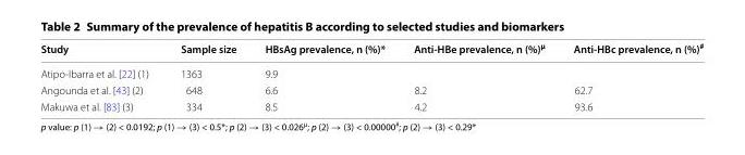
<table><thead><tr><td>Study</td><td>Sample size</td><td>HBsAg prevalence, n (%)*</td><td>Anti-HBe prevalence, n (%)<sup>µ</sup></td><td>Anti-HBc prevalence, n (%)<sup>#</sup></td></tr></thead><tbody><tr><td>Atipo-Ibarra et al. [22] (1)</td><td>1363</td><td>9.9</td><td></td><td></td></tr><tr><td>Angounda et al. [43] (2)</td><td>648</td><td>6.6</td><td>8.2</td><td>62.7</td></tr><tr><td>Makuwa et al. [83] (3)</td><td>334</td><td>8.5</td><td>4.2</td><td>93.6</td></tr></tbody></table>